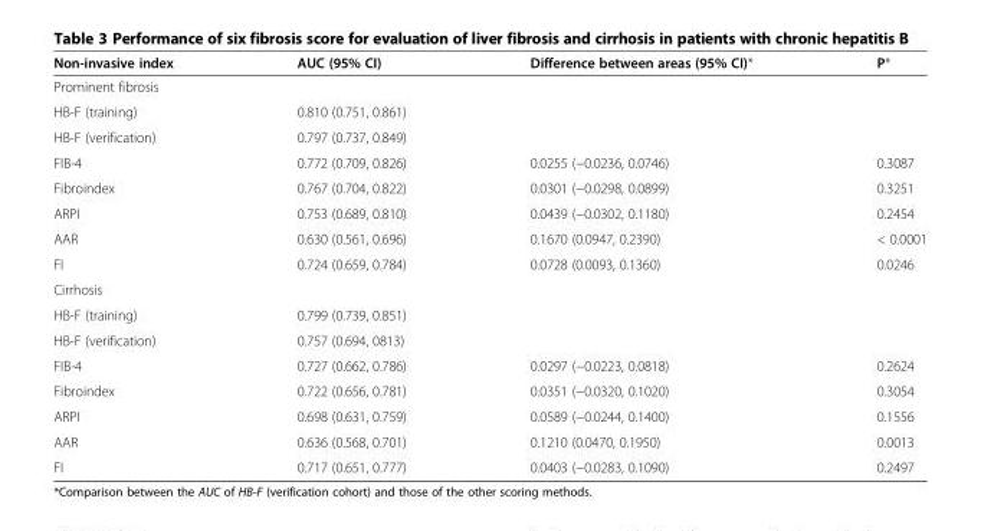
<table><thead><tr><td>Non-invasive index</td><td>AUC (95% CI)</td><td>Difference between areas (95% CI)*</td><td>P*</td></tr></thead><tbody><tr><td colspan="4">Prominent fibrosis</td></tr><tr><td>HB-F (training)</td><td>0.810 (0.751, 0.861)</td><td></td><td></td></tr><tr><td>HB-F (verification)</td><td>0.797 (0.737, 0.849)</td><td></td><td></td></tr><tr><td>FIB-4</td><td>0.772 (0.709, 0.826)</td><td>0.0255 (−0.0236, 0.0746)</td><td>0.3087</td></tr><tr><td>Fibroindex</td><td>0.767 (0.704, 0.822)</td><td>0.0301 (−0.0298, 0.0899)</td><td>0.3251</td></tr><tr><td>ARPI</td><td>0.753 (0.689, 0.810)</td><td>0.0439 (−0.0302, 0.1180)</td><td>0.2454</td></tr><tr><td>AAR</td><td>0.630 (0.561, 0.696)</td><td>0.1670 (0.0947, 0.2390)</td><td>&lt; 0.0001</td></tr><tr><td>FI</td><td>0.724 (0.659, 0.784)</td><td>0.0728 (0.0093, 0.1360)</td><td>0.0246</td></tr><tr><td colspan="4">Cirrhosis</td></tr><tr><td>HB-F (training)</td><td>0.799 (0.739, 0.851)</td><td></td><td></td></tr><tr><td>HB-F (verification)</td><td>0.757 (0.694, 0813)</td><td></td><td></td></tr><tr><td>FIB-4</td><td>0.727 (0.662, 0.786)</td><td>0.0297 (−0.0223, 0.0818)</td><td>0.2624</td></tr><tr><td>Fibroindex</td><td>0.722 (0.656, 0.781)</td><td>0.0351 (−0.0320, 0.1020)</td><td>0.3054</td></tr><tr><td>ARPI</td><td>0.698 (0.631, 0.759)</td><td>0.0589 (−0.0244, 0.1400)</td><td>0.1556</td></tr><tr><td>AAR</td><td>0.636 (0.568, 0.701)</td><td>0.1210 (0.0470, 0.1950)</td><td>0.0013</td></tr><tr><td>FI</td><td>0.717 (0.651, 0.777)</td><td>0.0403 (−0.0283, 0.1090)</td><td>0.2497</td></tr></tbody></table>